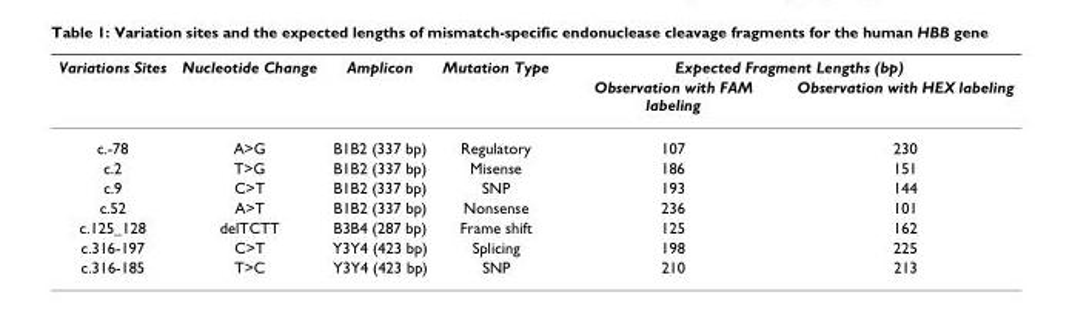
<table><thead><tr><td rowspan="2">Variations Sites</td><td rowspan="2">Nucleotide Change</td><td rowspan="2">Amplicon</td><td rowspan="2">Mutation Type</td><td colspan="2">Expected Fragment Lengths (bp)</td></tr><tr><td>Observation with FAM labeling</td><td>Observation with HEX labeling</td></tr></thead><tbody><tr><td>c.-78</td><td>A&gt;G</td><td>B1B2 (337 bp)</td><td>Regulatory</td><td>107</td><td>230</td></tr><tr><td>c.2</td><td>T&gt;G</td><td>B1B2 (337 bp)</td><td>Misense</td><td>186</td><td>151</td></tr><tr><td>c.9</td><td>C&gt;T</td><td>B1B2 (337 bp)</td><td>SNP</td><td>193</td><td>144</td></tr><tr><td>c.52</td><td>A&gt;T</td><td>B1B2 (337 bp)</td><td>Nonsense</td><td>236</td><td>101</td></tr><tr><td>c.125_128</td><td>delTCTT</td><td>B3B4 (287 bp)</td><td>Frame shift</td><td>125</td><td>162</td></tr><tr><td>c.316-197</td><td>C&gt;T</td><td>Y3Y4 (423 bp)</td><td>Splicing</td><td>198</td><td>225</td></tr><tr><td>c.316-185</td><td>T&gt;C</td><td>Y3Y4 (423 bp)</td><td>SNP</td><td>210</td><td>213</td></tr></tbody></table>